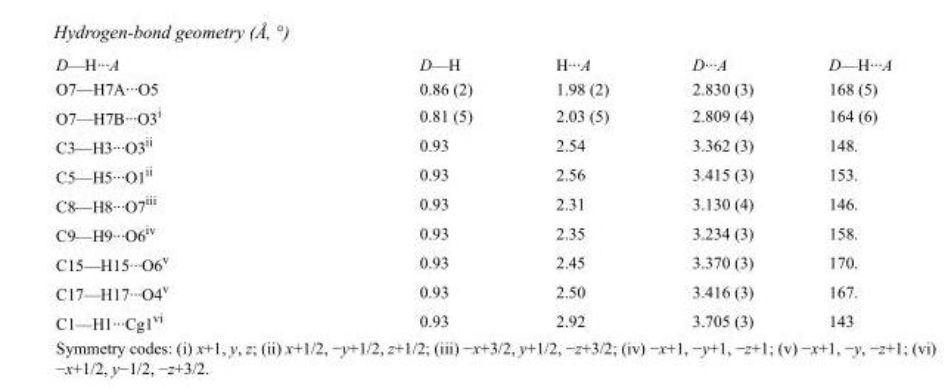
<table><tbody><tr><td>D—H···A</td><td>D—H</td><td>H···A</td><td>D···A</td><td>D—H···A</td></tr><tr><td>O7—H7A···O5</td><td>0.86 (2)</td><td>1.98 (2)</td><td>2.830 (3)</td><td>168 (5)</td></tr><tr><td>O7—H7B···O3<sup>i</sup></td><td>0.81 (5)</td><td>2.03 (5)</td><td>2.809 (4)</td><td>164 (6)</td></tr><tr><td>C3—H3···O3<sup>ii</sup></td><td>0.93</td><td>2.54</td><td>3.362 (3)</td><td>148.</td></tr><tr><td>C5—H5···O1<sup>ii</sup></td><td>0.93</td><td>2.56</td><td>3.415 (3)</td><td>153.</td></tr><tr><td>C8—H8···O7<sup>iii</sup></td><td>0.93</td><td>2.31</td><td>3.130 (4)</td><td>146.</td></tr><tr><td>C9—H9···O6<sup>iv</sup></td><td>0.93</td><td>2.35</td><td>3.234 (3)</td><td>158.</td></tr><tr><td>C15—H15···O6<sup>v</sup></td><td>0.93</td><td>2.45</td><td>3.370 (3)</td><td>170.</td></tr><tr><td>C17—H17···O4<sup>v</sup></td><td>0.93</td><td>2.50</td><td>3.416 (3)</td><td>167.</td></tr><tr><td>C1—H1···Cg1<sup>vi</sup></td><td>0.93</td><td>2.92</td><td>3.705 (3)</td><td>143</td></tr></tbody></table>